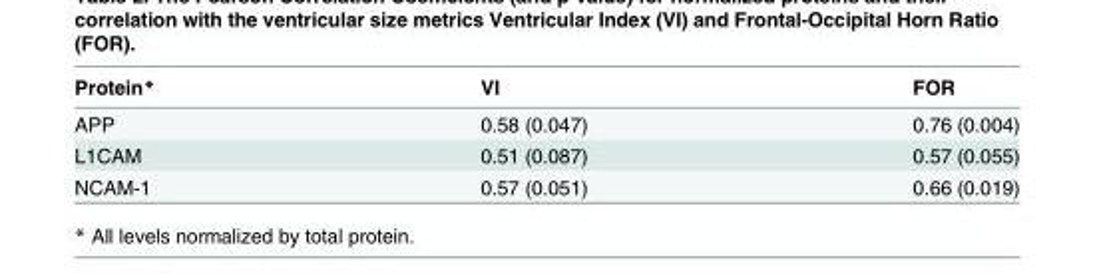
<table><thead><tr><td>Protein*</td><td>VI</td><td>FOR</td></tr></thead><tbody><tr><td>APP</td><td>0.58 (0.047)</td><td>0.76 (0.004)</td></tr><tr><td>L1CAM</td><td>0.51 (0.087)</td><td>0.57 (0.055)</td></tr><tr><td>NCAM-1</td><td>0.57 (0.051)</td><td>0.66 (0.019)</td></tr></tbody></table>